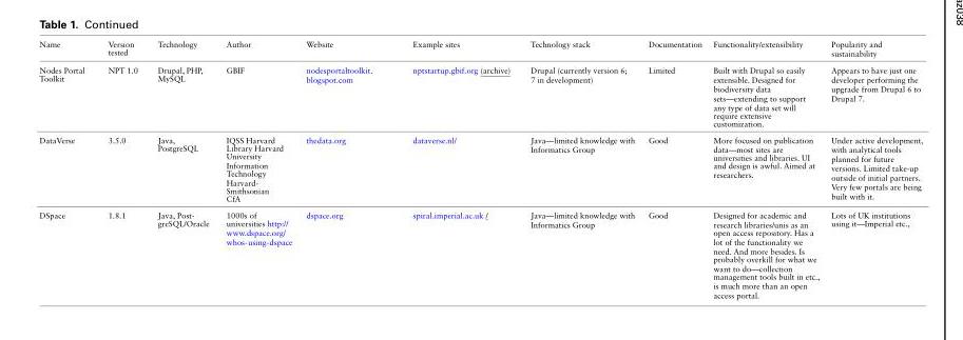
<table><thead><tr><td>Name</td><td>Version tested</td><td>Technology</td><td>Author</td><td>Website</td><td>Example sites</td><td>Technology stack</td><td>Documentation</td><td>Functionality/extensibility</td><td>Popularity and sustainability</td></tr></thead><tbody><tr><td>Nodes Portal Toolkit</td><td>NPT 1.0</td><td>Drupal, PHP, MySQL</td><td>GBIF</td><td>nodesportaltoolkit. blogspot.com</td><td>nptstartup.gbif.org (archive)</td><td>Drupal (currently version 6; 7 in development)</td><td>Limited</td><td>Built with Drupal so easily extensible. Designed for biodiversity data sets—extending to support any type of data set will require extensive customization.</td><td>Appears to have just one developer performing the upgrade from Drupal 6 to Drupal 7.</td></tr><tr><td>DataVerse</td><td>3.5.0</td><td>Java, PostgreSQL</td><td>IQSS Harvard Library Harvard University Information Technology Harvard- Smithsonian CfA</td><td>thedata.org</td><td>dataverse.nl/</td><td>Java—limited knowledge with Informatics Group</td><td>Good</td><td>More focused on publication data—most sites are universities and libraries. UI and design is awful. Aimed at researchers.</td><td>Under active development, with analytical tools planned for future versions. Limited take-up outside of initial partners. Very few portals are being built with it.</td></tr><tr><td>DSpace</td><td>1.8.1</td><td>Java, Post- greSQL/Oracle</td><td>1000s of universities http:// www.dspace.org/ whos-using-dspace</td><td>dspace.org</td><td>spiral.imperial.ac.uk /</td><td>Java—limited knowledge with Informatics Group</td><td>Good</td><td>Designed for academic and research libraries/unis as an open access repository. Has a lot of the functionality we need. And more besides. Is probably overkill for what we want to do—collection management tools built in etc., is much more than an open access portal.</td><td>Lots of UK institutions using it—Imperial etc.,</td></tr></tbody></table>